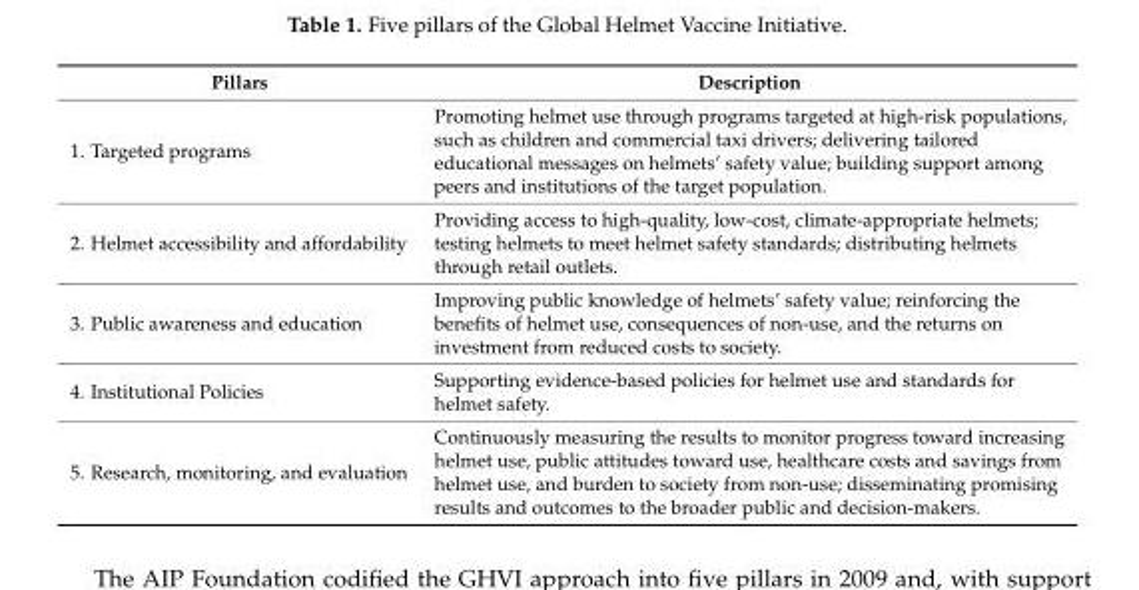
<table><thead><tr><td>Pillars</td><td>Description</td></tr></thead><tbody><tr><td>1. Targeted programs</td><td>Promoting helmet use through programs targeted at high-risk populations, such as children and commercial taxi drivers; delivering tailored educational messages on helmets’ safety value; building support among peers and institutions of the target population.</td></tr><tr><td>2. Helmet accessibility and affordability</td><td>Providing access to high-quality, low-cost, climate-appropriate helmets; testing helmets to meet helmet safety standards; distributing helmets through retail outlets.</td></tr><tr><td>3. Public awareness and education</td><td>Improving public knowledge of helmets’ safety value; reinforcing the benefits of helmet use, consequences of non-use, and the returns on investment from reduced costs to society.</td></tr><tr><td>4. Institutional Policies</td><td>Supporting evidence-based policies for helmet use and standards for helmet safety.</td></tr><tr><td>5. Research, monitoring, and evaluation</td><td>Continuously measuring the results to monitor progress toward increasing helmet use, public attitudes toward use, healthcare costs and savings from helmet use, and burden to society from non-use; disseminating promising results and outcomes to the broader public and decision-makers.</td></tr></tbody></table>